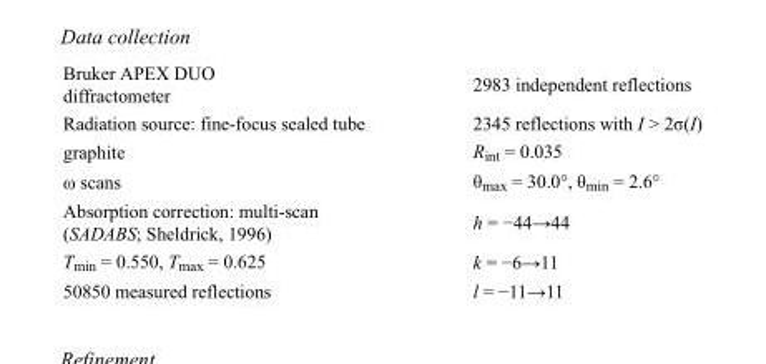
<table><tbody><tr><td>Bruker APEX DUO diffractometer</td><td>2983 independent reflections</td></tr><tr><td>Radiation source: fine-focus sealed tube</td><td>2345 reflections with I &gt; 2σ(I)</td></tr><tr><td>graphite</td><td>R<sub>int</sub> = 0.035</td></tr><tr><td>ω scans</td><td>θ<sub>max</sub> = 30.0°, θ<sub>min</sub> = 2.6°</td></tr><tr><td>Absorption correction: multi-scan (SADABS; Sheldrick, 1996)</td><td>h = −44→44</td></tr><tr><td>T<sub>min</sub> = 0.550, T<sub>max</sub> = 0.625</td><td>k = −6→11</td></tr><tr><td>50850 measured reflections</td><td>l = −11→11</td></tr></tbody></table>